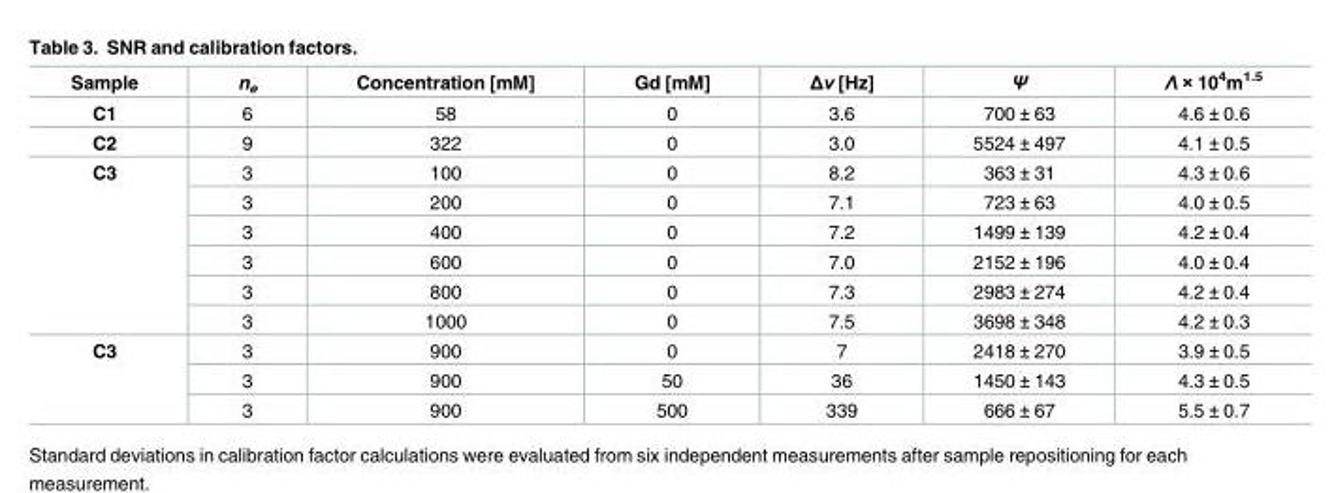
<table><thead><tr><td>Sample</td><td>n<sub>e</sub></td><td>Concentration [mM]</td><td>Gd [mM]</td><td>Δν [Hz]</td><td>Ψ</td><td>Λ × 10<sup>4</sup>m<sup>1.5</sup></td></tr></thead><tbody><tr><td>C1</td><td>6</td><td>58</td><td>0</td><td>3.6</td><td>700 ± 63</td><td>4.6 ± 0.6</td></tr><tr><td>C2</td><td>9</td><td>322</td><td>0</td><td>3.0</td><td>5524 ± 497</td><td>4.1 ± 0.5</td></tr><tr><td rowspan="6">C3</td><td>3</td><td>100</td><td>0</td><td>8.2</td><td>363 ± 31</td><td>4.3 ± 0.6</td></tr><tr><td>3</td><td>200</td><td>0</td><td>7.1</td><td>723 ± 63</td><td>4.0 ± 0.5</td></tr><tr><td>3</td><td>400</td><td>0</td><td>7.2</td><td>1499 ± 139</td><td>4.2 ± 0.4</td></tr><tr><td>3</td><td>600</td><td>0</td><td>7.0</td><td>2152 ± 196</td><td>4.0 ± 0.4</td></tr><tr><td>3</td><td>800</td><td>0</td><td>7.3</td><td>2983 ± 274</td><td>4.2 ± 0.4</td></tr><tr><td>3</td><td>1000</td><td>0</td><td>7.5</td><td>3698 ± 348</td><td>4.2 ± 0.3</td></tr><tr><td rowspan="3">C3</td><td>3</td><td>900</td><td>0</td><td>7</td><td>2418 ± 270</td><td>3.9 ± 0.5</td></tr><tr><td>3</td><td>900</td><td>50</td><td>36</td><td>1450 ± 143</td><td>4.3 ± 0.5</td></tr><tr><td>3</td><td>900</td><td>500</td><td>339</td><td>666 ± 67</td><td>5.5 ± 0.7</td></tr></tbody></table>